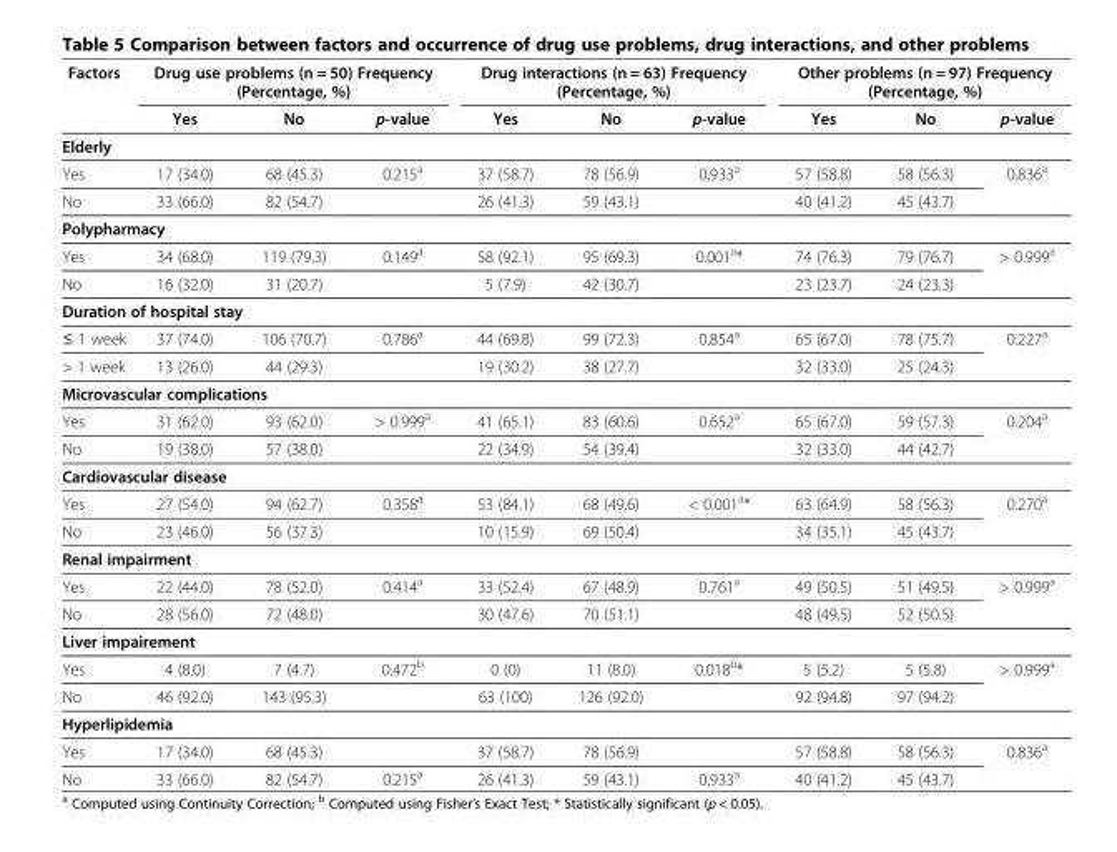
<table><thead><tr><td rowspan="2">Factors</td><td colspan="3">Drug use problems (n = 50) Frequency (Percentage, %)</td><td colspan="3">Drug interactions (n = 63) Frequency (Percentage, %)</td><td colspan="3">Other problems (n = 97) Frequency (Percentage, %)</td></tr><tr><td>Yes</td><td>No</td><td>p-value</td><td>Yes</td><td>No</td><td>p-value</td><td>Yes</td><td>No</td><td>p-value</td></tr></thead><tbody><tr><td colspan="10">Elderly</td></tr><tr><td>Yes</td><td>17 (34.0)</td><td>68 (45.3)</td><td>0.215<sup>a</sup></td><td>37 (58.7)</td><td>78 (56.9)</td><td>0.933<sup>a</sup></td><td>57 (58.8)</td><td>58 (56.3)</td><td rowspan="2">0.836<sup>a</sup></td></tr><tr><td>No</td><td>33 (66.0)</td><td>82 (54.7)</td><td></td><td>26 (41.3)</td><td>59 (43.1)</td><td></td><td>40 (41.2)</td><td>45 (43.7)</td></tr><tr><td colspan="10">Polypharmacy</td></tr><tr><td>Yes</td><td>34 (68.0)</td><td>119 (79.3)</td><td>0.149<sup>a</sup></td><td>58 (92.1)</td><td>95 (69.3)</td><td>0.001<sup>a</sup>*</td><td>74 (76.3)</td><td>79 (76.7)</td><td rowspan="2">&gt; 0.999<sup>a</sup></td></tr><tr><td>No</td><td>16 (32.0)</td><td>31 (20.7)</td><td></td><td>5 (7.9)</td><td>42 (30.7)</td><td></td><td>23 (23.7)</td><td>24 (23.3)</td></tr><tr><td colspan="10">Duration of hospital stay</td></tr><tr><td>≤ 1 week</td><td>37 (74.0)</td><td>106 (70.7)</td><td>0.786<sup>a</sup></td><td>44 (69.8)</td><td>99 (72.3)</td><td>0.854<sup>a</sup></td><td>65 (67.0)</td><td>78 (75.7)</td><td rowspan="2">0.227<sup>a</sup></td></tr><tr><td>&gt; 1 week</td><td>13 (26.0)</td><td>44 (29.3)</td><td></td><td>19 (30.2)</td><td>38 (27.7)</td><td></td><td>32 (33.0)</td><td>25 (24.3)</td></tr><tr><td colspan="10">Microvascular complications</td></tr><tr><td>Yes</td><td>31 (62.0)</td><td>93 (62.0)</td><td>&gt; 0.999<sup>a</sup></td><td>41 (65.1)</td><td>83 (60.6)</td><td>0.652<sup>a</sup></td><td>65 (67.0)</td><td>59 (57.3)</td><td rowspan="2">0.204<sup>a</sup></td></tr><tr><td>No</td><td>19 (38.0)</td><td>57 (38.0)</td><td></td><td>22 (34.9)</td><td>54 (39.4)</td><td></td><td>32 (33.0)</td><td>44 (42.7)</td></tr><tr><td colspan="10">Cardiovascular disease</td></tr><tr><td>Yes</td><td>27 (54.0)</td><td>94 (62.7)</td><td>0.358<sup>a</sup></td><td>53 (84.1)</td><td>68 (49.6)</td><td>&lt; 0.001<sup>a</sup>*</td><td>63 (64.9)</td><td>58 (56.3)</td><td rowspan="2">0.270<sup>a</sup></td></tr><tr><td>No</td><td>23 (46.0)</td><td>56 (37.3)</td><td></td><td>10 (15.9)</td><td>69 (50.4)</td><td></td><td>34 (35.1)</td><td>45 (43.7)</td></tr><tr><td colspan="10">Renal impairment</td></tr><tr><td>Yes</td><td>22 (44.0)</td><td>78 (52.0)</td><td>0.414<sup>a</sup></td><td>33 (52.4)</td><td>67 (48.9)</td><td>0.761<sup>a</sup></td><td>49 (50.5)</td><td>51 (49.5)</td><td rowspan="2">&gt; 0.999<sup>a</sup></td></tr><tr><td>No</td><td>28 (56.0)</td><td>72 (48.0)</td><td></td><td>30 (47.6)</td><td>70 (51.1)</td><td></td><td>48 (49.5)</td><td>52 (50.5)</td></tr><tr><td colspan="10">Liver impairement</td></tr><tr><td>Yes</td><td>4 (8.0)</td><td>7 (4.7)</td><td>0.472<sup>b</sup></td><td>0 (0)</td><td>11 (8.0)</td><td>0.018<sup>b</sup>*</td><td>5 (5.2)</td><td>5 (5.8)</td><td rowspan="2">&gt; 0.999<sup>a</sup></td></tr><tr><td>No</td><td>46 (92.0)</td><td>143 (95.3)</td><td></td><td>63 (100)</td><td>126 (92.0)</td><td></td><td>92 (94.8)</td><td>97 (94.2)</td></tr><tr><td colspan="10">Hyperlipidemia</td></tr><tr><td>Yes</td><td>17 (34.0)</td><td>68 (45.3)</td><td></td><td>37 (58.7)</td><td>78 (56.9)</td><td></td><td>57 (58.8)</td><td>58 (56.3)</td><td rowspan="2">0.836<sup>a</sup></td></tr><tr><td>No</td><td>33 (66.0)</td><td>82 (54.7)</td><td>0.215<sup>a</sup></td><td>26 (41.3)</td><td>59 (43.1)</td><td>0.933<sup>a</sup></td><td>40 (41.2)</td><td>45 (43.7)</td></tr></tbody></table>